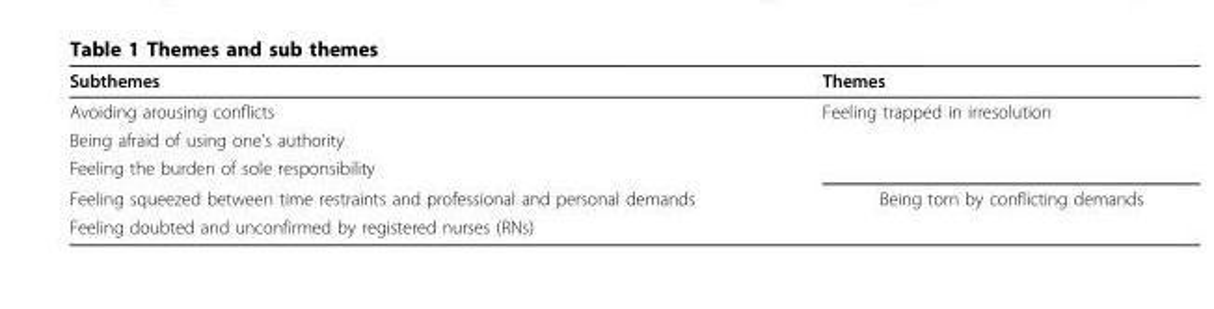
<table><thead><tr><td>Subthemes</td><td>Themes</td></tr></thead><tbody><tr><td>Avoiding arousing conflicts</td><td>Feeling trapped in irresolution</td></tr><tr><td colspan="2">Being afraid of using one’s authority</td></tr><tr><td colspan="2">Feeling the burden of sole responsibility</td></tr><tr><td>Feeling squeezed between time restraints and professional and personal demands</td><td>Being torn by conflicting demands</td></tr><tr><td>Feeling doubted and unconfirmed by registered nurses (RNs)</td><td></td></tr></tbody></table>